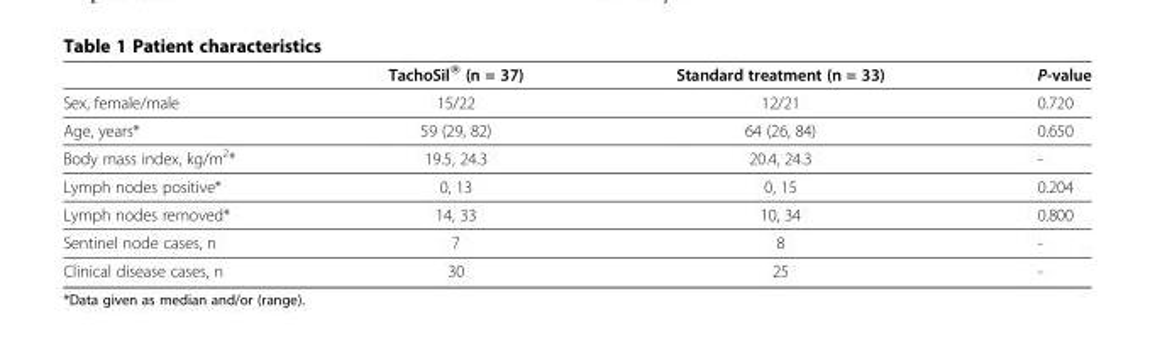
<table><thead><tr><td></td><td>TachoSil<sup>®</sup> (n = 37)</td><td>Standard treatment (n = 33)</td><td>P-value</td></tr></thead><tbody><tr><td>Sex, female/male</td><td>15/22</td><td>12/21</td><td>0.720</td></tr><tr><td>Age, years*</td><td>59 (29, 82)</td><td>64 (26, 84)</td><td>0.650</td></tr><tr><td>Body mass index, kg/m<sup>2</sup>*</td><td>19.5, 24.3</td><td>20.4, 24.3</td><td>-</td></tr><tr><td>Lymph nodes positive*</td><td>0, 13</td><td>0, 15</td><td>0.204</td></tr><tr><td>Lymph nodes removed*</td><td>14, 33</td><td>10, 34</td><td>0.800</td></tr><tr><td>Sentinel node cases, n</td><td>7</td><td>8</td><td>-</td></tr><tr><td>Clinical disease cases, n</td><td>30</td><td>25</td><td>-</td></tr></tbody></table>